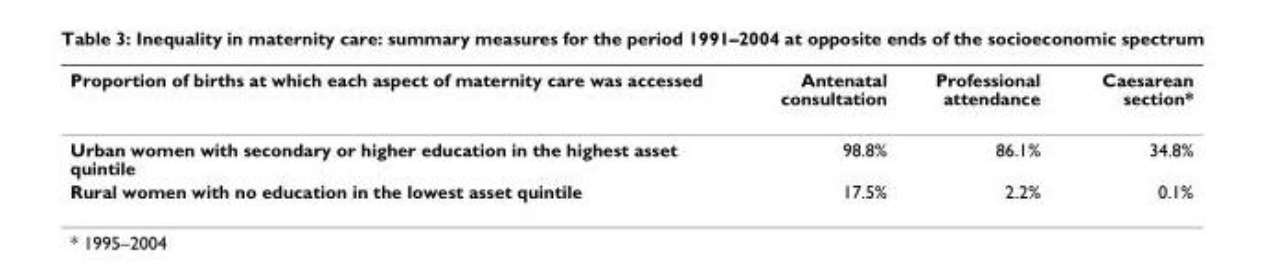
<table><thead><tr><td>Proportion of births at which each aspect of maternity care was accessed</td><td>Antenatal consultation</td><td>Professional attendance</td><td>Caesarean section*</td></tr></thead><tbody><tr><td>Urban women with secondary or higher education in the highest asset quintile</td><td>98.8%</td><td>86.1%</td><td>34.8%</td></tr><tr><td>Rural women with no education in the lowest asset quintile</td><td>17.5%</td><td>2.2%</td><td>0.1%</td></tr></tbody></table>